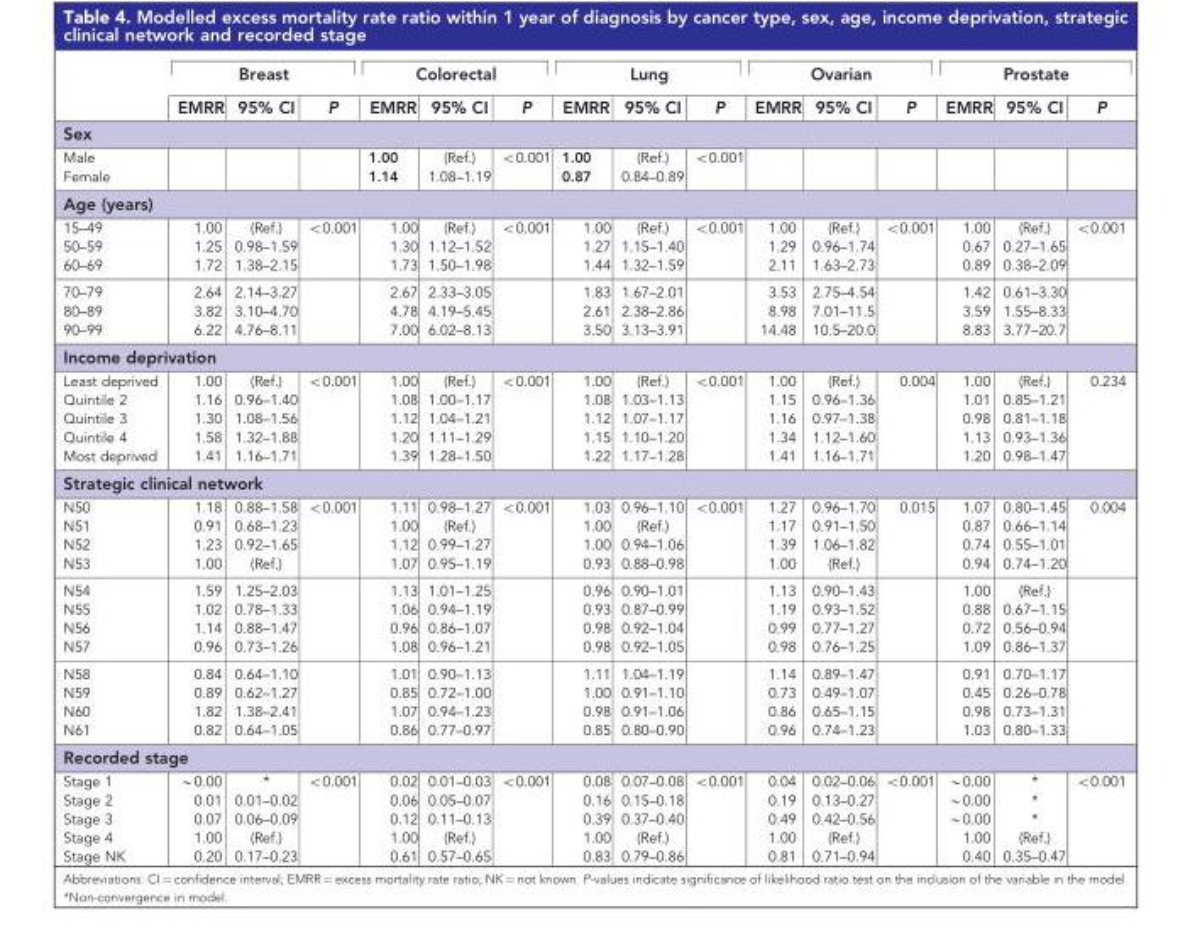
<table><thead><tr><td rowspan="2"></td><td colspan="3">Breast</td><td colspan="3">Colorectal</td><td colspan="3">Lung</td><td colspan="3">Ovarian</td><td colspan="3">Prostate</td></tr><tr><td>EMRR</td><td>95% CI</td><td>P</td><td>EMRR</td><td>95% CI</td><td>P</td><td>EMRR</td><td>95% CI</td><td>P</td><td>EMRR</td><td>95% CI</td><td>P</td><td>EMRR</td><td>95% CI</td><td>P</td></tr></thead><tbody><tr><td colspan="16">Sex</td></tr><tr><td>Male</td><td></td><td></td><td></td><td>1.00</td><td>(Ref.)</td><td>&lt;0.001</td><td>1.00</td><td>(Ref.)</td><td>&lt;0.001</td><td></td><td></td><td></td><td></td><td></td><td></td></tr><tr><td>Female</td><td></td><td></td><td></td><td>1.14</td><td>1.08–1.19</td><td></td><td>0.87</td><td>0.84–0.89</td><td></td><td></td><td></td><td></td><td></td><td></td><td></td></tr><tr><td colspan="16">Age (years)</td></tr><tr><td>15–49</td><td>1.00</td><td>(Ref.)</td><td>&lt;0.001</td><td>1.00</td><td>(Ref.)</td><td>&lt;0.001</td><td>1.00</td><td>(Ref.)</td><td>&lt;0.001</td><td>1.00</td><td>(Ref.)</td><td>&lt;0.001</td><td>1.00</td><td>(Ref.)</td><td>&lt;0.001</td></tr><tr><td>50–59</td><td>1.25</td><td>0.98–1.59</td><td></td><td>1.30</td><td>1.12–1.52</td><td></td><td>1.27</td><td>1.15–1.40</td><td></td><td>1.29</td><td>0.96–1.74</td><td></td><td>0.67</td><td>0.27–1.65</td><td></td></tr><tr><td>60–69</td><td>1.72</td><td>1.38–2.15</td><td></td><td>1.73</td><td>1.50–1.98</td><td></td><td>1.44</td><td>1.32–1.59</td><td></td><td>2.11</td><td>1.63–2.73</td><td></td><td>0.89</td><td>0.38–2.09</td><td></td></tr><tr><td>70–79</td><td>2.64</td><td>2.14–3.27</td><td></td><td>2.67</td><td>2.33–3.05</td><td></td><td>1.83</td><td>1.67–2.01</td><td></td><td>3.53</td><td>2.75–4.54</td><td></td><td>1.42</td><td>0.61–3.30</td><td></td></tr><tr><td>80–89</td><td>3.82</td><td>3.10–4.70</td><td></td><td>4.78</td><td>4.19–5.45</td><td></td><td>2.61</td><td>2.38–2.86</td><td></td><td>8.98</td><td>7.01–11.5</td><td></td><td>3.59</td><td>1.55–8.33</td><td></td></tr><tr><td>90–99</td><td>6.22</td><td>4.76–8.11</td><td></td><td>7.00</td><td>6.02–8.13</td><td></td><td>3.50</td><td>3.13–3.91</td><td></td><td>14.48</td><td>10.5–20.0</td><td></td><td>8.83</td><td>3.77–20.7</td><td></td></tr><tr><td colspan="16">Income deprivation</td></tr><tr><td>Least deprived</td><td>1.00</td><td>(Ref.)</td><td>&lt;0.001</td><td>1.00</td><td>(Ref.)</td><td>&lt;0.001</td><td>1.00</td><td>(Ref.)</td><td>&lt;0.001</td><td>1.00</td><td>(Ref.)</td><td>0.004</td><td>1.00</td><td>(Ref.)</td><td>0.234</td></tr><tr><td>Quintile 2</td><td>1.16</td><td>0.96–1.40</td><td></td><td>1.08</td><td>1.00–1.17</td><td></td><td>1.08</td><td>1.03–1.13</td><td></td><td>1.15</td><td>0.96–1.36</td><td></td><td>1.01</td><td>0.85–1.21</td><td></td></tr><tr><td>Quintile 3</td><td>1.30</td><td>1.08–1.56</td><td></td><td>1.12</td><td>1.04–1.21</td><td></td><td>1.12</td><td>1.07–1.17</td><td></td><td>1.16</td><td>0.97–1.38</td><td></td><td>0.98</td><td>0.81–1.18</td><td></td></tr><tr><td>Quintile 4</td><td>1.58</td><td>1.32–1.88</td><td></td><td>1.20</td><td>1.11–1.29</td><td></td><td>1.15</td><td>1.10–1.20</td><td></td><td>1.34</td><td>1.12–1.60</td><td></td><td>1.13</td><td>0.93–1.36</td><td></td></tr><tr><td>Most deprived</td><td>1.41</td><td>1.16–1.71</td><td></td><td>1.39</td><td>1.28–1.50</td><td></td><td>1.22</td><td>1.17–1.28</td><td></td><td>1.41</td><td>1.16–1.71</td><td></td><td>1.20</td><td>0.98–1.47</td><td></td></tr><tr><td colspan="16">Strategic clinical network</td></tr><tr><td>N50</td><td>1.18</td><td>0.88–1.58</td><td>&lt;0.001</td><td>1.11</td><td>0.98–1.27</td><td>&lt;0.001</td><td>1.03</td><td>0.96–1.10</td><td>&lt;0.001</td><td>1.27</td><td>0.96–1.70</td><td>0.015</td><td>1.07</td><td>0.80–1.45</td><td>0.004</td></tr><tr><td>N51</td><td>0.91</td><td>0.68–1.23</td><td></td><td>1.00</td><td>(Ref.)</td><td></td><td>1.00</td><td>(Ref.)</td><td></td><td>1.17</td><td>0.91–1.50</td><td></td><td>0.87</td><td>0.66–1.14</td><td></td></tr><tr><td>N52</td><td>1.23</td><td>0.92–1.65</td><td></td><td>1.12</td><td>0.99–1.27</td><td></td><td>1.00</td><td>0.94–1.06</td><td></td><td>1.39</td><td>1.06–1.82</td><td></td><td>0.74</td><td>0.55–1.01</td><td></td></tr><tr><td>N53</td><td>1.00</td><td>(Ref.)</td><td></td><td>1.07</td><td>0.95–1.19</td><td></td><td>0.93</td><td>0.88–0.98</td><td></td><td>1.00</td><td>(Ref.)</td><td></td><td>0.94</td><td>0.74–1.20</td><td></td></tr><tr><td>N54</td><td>1.59</td><td>1.25–2.03</td><td></td><td>1.13</td><td>1.01–1.25</td><td></td><td>0.96</td><td>0.90–1.01</td><td></td><td>1.13</td><td>0.90–1.43</td><td></td><td>1.00</td><td>(Ref.)</td><td></td></tr><tr><td>N55</td><td>1.02</td><td>0.78–1.33</td><td></td><td>1.06</td><td>0.94–1.19</td><td></td><td>0.93</td><td>0.87–0.99</td><td></td><td>1.19</td><td>0.93–1.52</td><td></td><td>0.88</td><td>0.67–1.15</td><td></td></tr><tr><td>N56</td><td>1.14</td><td>0.88–1.47</td><td></td><td>0.96</td><td>0.86–1.07</td><td></td><td>0.98</td><td>0.92–1.04</td><td></td><td>0.99</td><td>0.77–1.27</td><td></td><td>0.72</td><td>0.56–0.94</td><td></td></tr><tr><td>N57</td><td>0.96</td><td>0.73–1.26</td><td></td><td>1.08</td><td>0.96–1.21</td><td></td><td>0.98</td><td>0.92–1.05</td><td></td><td>0.98</td><td>0.76–1.25</td><td></td><td>1.09</td><td>0.86–1.37</td><td></td></tr><tr><td>N58</td><td>0.84</td><td>0.64–1.10</td><td></td><td>1.01</td><td>0.90–1.13</td><td></td><td>1.11</td><td>1.04–1.19</td><td></td><td>1.14</td><td>0.89–1.47</td><td></td><td>0.91</td><td>0.70–1.17</td><td></td></tr><tr><td>N59</td><td>0.89</td><td>0.62–1.27</td><td></td><td>0.85</td><td>0.72–1.00</td><td></td><td>1.00</td><td>0.91–1.10</td><td></td><td>0.73</td><td>0.49–1.07</td><td></td><td>0.45</td><td>0.26–0.78</td><td></td></tr><tr><td>N60</td><td>1.82</td><td>1.38–2.41</td><td></td><td>1.07</td><td>0.94–1.23</td><td></td><td>0.98</td><td>0.91–1.06</td><td></td><td>0.86</td><td>0.65–1.15</td><td></td><td>0.98</td><td>0.73–1.31</td><td></td></tr><tr><td>N61</td><td>0.82</td><td>0.64–1.05</td><td></td><td>0.86</td><td>0.77–0.97</td><td></td><td>0.85</td><td>0.80–0.90</td><td></td><td>0.96</td><td>0.74–1.23</td><td></td><td>1.03</td><td>0.80–1.33</td><td></td></tr><tr><td colspan="16">Recorded stage</td></tr><tr><td>Stage 1</td><td>∼0.00</td><td>*</td><td>&lt;0.001</td><td>0.02</td><td>0.01–0.03</td><td>&lt;0.001</td><td>0.08</td><td>0.07–0.08</td><td>&lt;0.001</td><td>0.04</td><td>0.02–0.06</td><td>&lt;0.001</td><td>∼0.00</td><td>*</td><td>&lt;0.001</td></tr><tr><td>Stage 2</td><td>0.01</td><td>0.01–0.02</td><td></td><td>0.06</td><td>0.05–0.07</td><td></td><td>0.16</td><td>0.15–0.18</td><td></td><td>0.19</td><td>0.13–0.27</td><td></td><td>∼0.00</td><td>*</td><td></td></tr><tr><td>Stage 3</td><td>0.07</td><td>0.06–0.09</td><td></td><td>0.12</td><td>0.11–0.13</td><td></td><td>0.39</td><td>0.37–0.40</td><td></td><td>0.49</td><td>0.42–0.56</td><td></td><td>∼0.00</td><td>*</td><td></td></tr><tr><td>Stage 4</td><td>1.00</td><td>(Ref.)</td><td></td><td>1.00</td><td>(Ref.)</td><td></td><td>1.00</td><td>(Ref.)</td><td></td><td>1.00</td><td>(Ref.)</td><td></td><td>1.00</td><td>(Ref.)</td><td></td></tr><tr><td>Stage NK</td><td>0.20</td><td>0.17–0.23</td><td></td><td>0.61</td><td>0.57–0.65</td><td></td><td>0.83</td><td>0.79–0.86</td><td></td><td>0.81</td><td>0.71–0.94</td><td></td><td>0.40</td><td>0.35–0.47</td><td></td></tr></tbody></table>